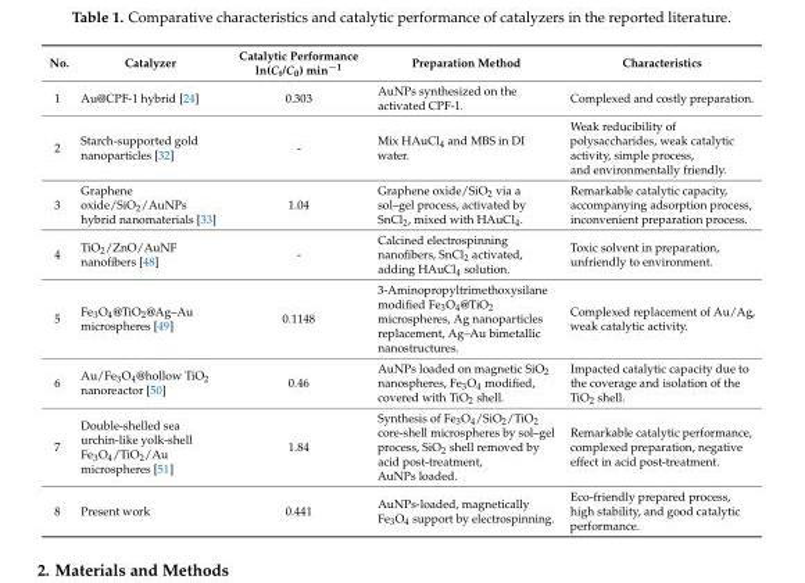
<table><thead><tr><td>No.</td><td>Catalyzer</td><td>Catalytic Performance ln(C<sub>t</sub>/C<sub>0</sub>) min<sup>−1</sup></td><td>Preparation Method</td><td>Characteristics</td></tr></thead><tbody><tr><td>1</td><td>Au@CPF-1 hybrid [24]</td><td>0.303</td><td>AuNPs synthesized on the activated CPF-1.</td><td>Complexed and costly preparation.</td></tr><tr><td>2</td><td>Starch-supported gold nanoparticles [32]</td><td>-</td><td>Mix HAuCl<sub>4</sub> and MBS in DI water.</td><td>Weak reducibility of polysaccharides, weak catalytic activity, simple process, and environmentally friendly.</td></tr><tr><td>3</td><td>Graphene oxide/SiO<sub>2</sub>/AuNPs hybrid nanomaterials [33]</td><td>1.04</td><td>Graphene oxide/SiO<sub>2</sub> via a sol–gel process, activated by SnCl<sub>2</sub>, mixed with HAuCl<sub>4</sub>.</td><td>Remarkable catalytic capacity, accompanying adsorption process, inconvenient preparation process.</td></tr><tr><td>4</td><td>TiO<sub>2</sub>/ZnO/AuNF nanofibers [48]</td><td>-</td><td>Calcined electrospinning nanofibers, SnCl<sub>2</sub> activated, adding HAuCl<sub>4</sub> solution.</td><td>Toxic solvent in preparation, unfriendly to environment.</td></tr><tr><td>5</td><td>Fe<sub>3</sub>O<sub>4</sub>@TiO<sub>2</sub>@Ag–Au microspheres [49]</td><td>0.1148</td><td>3-Aminopropyltrimethoxysilane modified Fe<sub>3</sub>O<sub>4</sub>@TiO<sub>2</sub> microspheres, Ag nanoparticles replacement, Ag–Au bimetallic nanostructures.</td><td>Complexed replacement of Au/Ag, weak catalytic activity.</td></tr><tr><td>6</td><td>Au/Fe<sub>3</sub>O<sub>4</sub>@hollow TiO<sub>2</sub> nanoreactor [50]</td><td>0.46</td><td>AuNPs loaded on magnetic SiO<sub>2</sub> nanospheres, Fe<sub>3</sub>O<sub>4</sub> modified, covered with TiO<sub>2</sub> shell.</td><td>Impacted catalytic capacity due to the coverage and isolation of the TiO<sub>2</sub> shell.</td></tr><tr><td>7</td><td>Double-shelled sea urchin-like yolk-shell Fe<sub>3</sub>O<sub>4</sub>/TiO<sub>2</sub>/Au microspheres [51]</td><td>1.84</td><td>Synthesis of Fe<sub>3</sub>O<sub>4</sub>/SiO<sub>2</sub>/TiO<sub>2</sub> core-shell microspheres by sol–gel process, SiO<sub>2</sub> shell removed by acid post-treatment, AuNPs loaded.</td><td>Remarkable catalytic performance, complexed preparation, negative effect in acid post-treatment.</td></tr><tr><td>8</td><td>Present work</td><td>0.441</td><td>AuNPs-loaded, magnetically Fe<sub>3</sub>O<sub>4</sub> support by electrospinning.</td><td>Eco-friendly prepared process, high stability, and good catalytic performance.</td></tr></tbody></table>